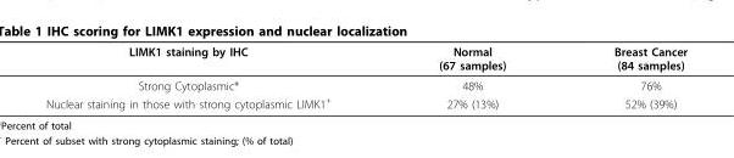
<table><thead><tr><td>LIMK1 staining by IHC</td><td>Normal (67 samples)</td><td>Breast Cancer (84 samples)</td></tr></thead><tbody><tr><td>Strong Cytoplasmic*</td><td>48%</td><td>76%</td></tr><tr><td>Nuclear staining in those with strong cytoplasmic LIMK1<sup>+</sup></td><td>27% (13%)</td><td>52% (39%)</td></tr></tbody></table>